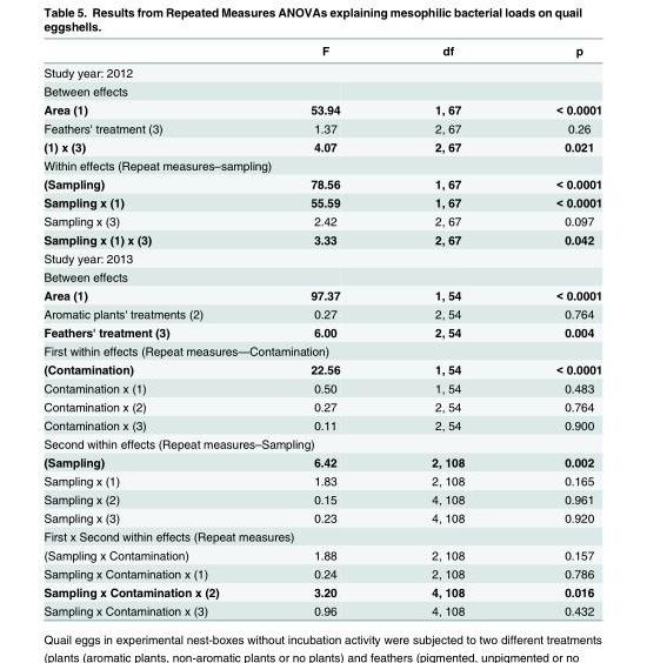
<table><thead><tr><td></td><td>F</td><td>df</td><td>p</td></tr></thead><tbody><tr><td colspan="4">Study year: 2012</td></tr><tr><td colspan="4">Between effects</td></tr><tr><td>Area (1)</td><td>53.94</td><td>1, 67</td><td>&lt; 0.0001</td></tr><tr><td>Feathers&#x27; treatment (3)</td><td>1.37</td><td>2, 67</td><td>0.26</td></tr><tr><td>(1) x (3)</td><td>4.07</td><td>2, 67</td><td>0.021</td></tr><tr><td colspan="4">Within effects (Repeat measures–sampling)</td></tr><tr><td>(Sampling)</td><td>78.56</td><td>1, 67</td><td>&lt; 0.0001</td></tr><tr><td>Sampling x (1)</td><td>55.59</td><td>1, 67</td><td>&lt; 0.0001</td></tr><tr><td>Sampling x (3)</td><td>2.42</td><td>2, 67</td><td>0.097</td></tr><tr><td>Sampling x (1) x (3)</td><td>3.33</td><td>2, 67</td><td>0.042</td></tr><tr><td colspan="4">Study year: 2013</td></tr><tr><td colspan="4">Between effects</td></tr><tr><td>Area (1)</td><td>97.37</td><td>1, 54</td><td>&lt; 0.0001</td></tr><tr><td>Aromatic plants&#x27; treatments (2)</td><td>0.27</td><td>2, 54</td><td>0.764</td></tr><tr><td>Feathers&#x27; treatment (3)</td><td>6.00</td><td>2, 54</td><td>0.004</td></tr><tr><td colspan="4">First within effects (Repeat measures—Contamination)</td></tr><tr><td>(Contamination)</td><td>22.56</td><td>1, 54</td><td>&lt; 0.0001</td></tr><tr><td>Contamination x (1)</td><td>0.50</td><td>1, 54</td><td>0.483</td></tr><tr><td>Contamination x (2)</td><td>0.27</td><td>2, 54</td><td>0.764</td></tr><tr><td>Contamination x (3)</td><td>0.11</td><td>2, 54</td><td>0.900</td></tr><tr><td colspan="4">Second within effects (Repeat measures–Sampling)</td></tr><tr><td>(Sampling)</td><td>6.42</td><td>2, 108</td><td>0.002</td></tr><tr><td>Sampling x (1)</td><td>1.83</td><td>2, 108</td><td>0.165</td></tr><tr><td>Sampling x (2)</td><td>0.15</td><td>4, 108</td><td>0.961</td></tr><tr><td>Sampling x (3)</td><td>0.23</td><td>4, 108</td><td>0.920</td></tr><tr><td colspan="4">First x Second within effects (Repeat measures)</td></tr><tr><td>(Sampling x Contamination)</td><td>1.88</td><td>2, 108</td><td>0.157</td></tr><tr><td>Sampling x Contamination x (1)</td><td>0.24</td><td>2, 108</td><td>0.786</td></tr><tr><td>Sampling x Contamination x (2)</td><td>3.20</td><td>4, 108</td><td>0.016</td></tr><tr><td>Sampling x Contamination x (3)</td><td>0.96</td><td>4, 108</td><td>0.432</td></tr></tbody></table>